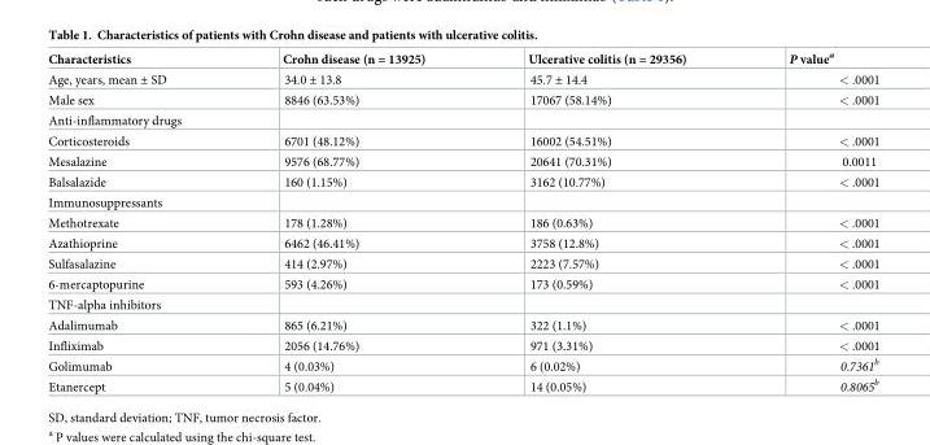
<table><thead><tr><td>Characteristics</td><td>Crohn disease (n = 13925)</td><td>Ulcerative colitis (n = 29356)</td><td>P value<sup>a</sup></td></tr></thead><tbody><tr><td>Age, years, mean ± SD</td><td>34.0 ± 13.8</td><td>45.7 ± 14.4</td><td>&lt; .0001</td></tr><tr><td>Male sex</td><td>8846 (63.53%)</td><td>17067 (58.14%)</td><td>&lt; .0001</td></tr><tr><td colspan="4">Anti-inflammatory drugs</td></tr><tr><td>Corticosteroids</td><td>6701 (48.12%)</td><td>16002 (54.51%)</td><td>&lt; .0001</td></tr><tr><td>Mesalazine</td><td>9576 (68.77%)</td><td>20641 (70.31%)</td><td>0.0011</td></tr><tr><td>Balsalazide</td><td>160 (1.15%)</td><td>3162 (10.77%)</td><td>&lt; .0001</td></tr><tr><td colspan="4">Immunosuppressants</td></tr><tr><td>Methotrexate</td><td>178 (1.28%)</td><td>186 (0.63%)</td><td>&lt; .0001</td></tr><tr><td>Azathioprine</td><td>6462 (46.41%)</td><td>3758 (12.8%)</td><td>&lt; .0001</td></tr><tr><td>Sulfasalazine</td><td>414 (2.97%)</td><td>2223 (7.57%)</td><td>&lt; .0001</td></tr><tr><td>6-mercaptopurine</td><td>593 (4.26%)</td><td>173 (0.59%)</td><td>&lt; .0001</td></tr><tr><td colspan="4">TNF-alpha inhibitors</td></tr><tr><td>Adalimumab</td><td>865 (6.21%)</td><td>322 (1.1%)</td><td>&lt; .0001</td></tr><tr><td>Infliximab</td><td>2056 (14.76%)</td><td>971 (3.31%)</td><td>&lt; .0001</td></tr><tr><td>Golimumab</td><td>4 (0.03%)</td><td>6 (0.02%)</td><td>0.7361<sup>b</sup></td></tr><tr><td>Etanercept</td><td>5 (0.04%)</td><td>14 (0.05%)</td><td>0.8065<sup>b</sup></td></tr></tbody></table>